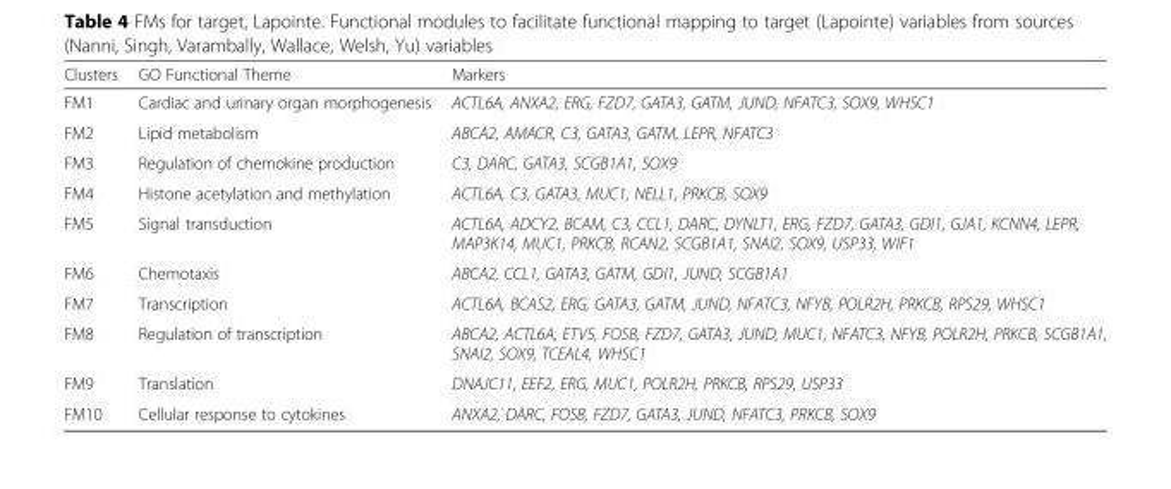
<table><thead><tr><td>Clusters</td><td>GO Functional Theme</td><td>Markers</td></tr></thead><tbody><tr><td>FM1</td><td>Cardiac and urinary organ morphogenesis</td><td>ACTL6A, ANXA2, ERG, FZD7, GATA3, GATM, JUND, NFATC3, SOX9, WHSC1</td></tr><tr><td>FM2</td><td>Lipid metabolism</td><td>ABCA2, AMACR, C3, GATA3, GATM, LEPR, NFATC3</td></tr><tr><td>FM3</td><td>Regulation of chemokine production</td><td>C3, DARC, GATA3, SCGB1A1, SOX9</td></tr><tr><td>FM4</td><td>Histone acetylation and methylation</td><td>ACTL6A, C3, GATA3, MUC1, NELL1, PRKCB, SOX9</td></tr><tr><td>FM5</td><td>Signal transduction</td><td>ACTL6A, ADCY2, BCAM, C3, CCL1, DARC, DYNLT1, ERG, FZD7, GATA3, GDI1, GJA1, KCNN4, LEPR, MAP3K14, MUC1, PRKCB, RCAN2, SCGB1A1, SNAI2, SOX9, USP33, WIF1</td></tr><tr><td>FM6</td><td>Chemotaxis</td><td>ABCA2, CCL1, GATA3, GATM, GDI1, JUND, SCGB1A1</td></tr><tr><td>FM7</td><td>Transcription</td><td>ACTL6A, BCAS2, ERG, GATA3, GATM, JUND, NFATC3, NFYB, POLR2H, PRKCB, RPS29, WHSC1</td></tr><tr><td>FM8</td><td>Regulation of transcription</td><td>ABCA2, ACTL6A, ETV5, FOSB, FZD7, GATA3, JUND, MUC1, NFATC3, NFYB, POLR2H, PRKCB, SCGB1A1, SNAI2, SOX9, TCEAL4, WHSC1</td></tr><tr><td>FM9</td><td>Translation</td><td>DNAJC11, EEF2, ERG, MUC1, POLR2H, PRKCB, RPS29, USP33</td></tr><tr><td>FM10</td><td>Cellular response to cytokines</td><td>ANXA2, DARC, FOSB, FZD7, GATA3, JUND, NFATC3, PRKCB, SOX9</td></tr></tbody></table>